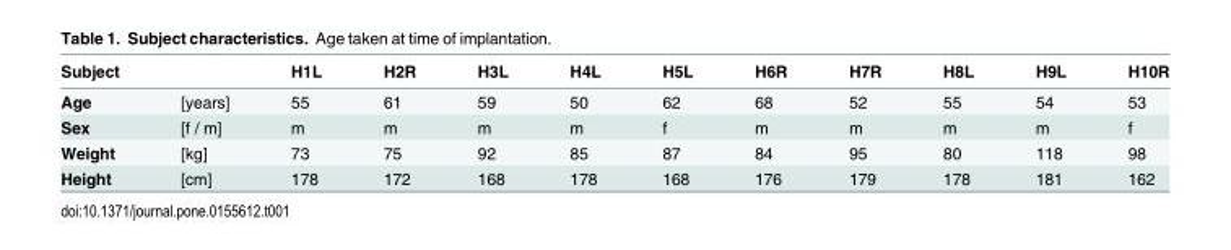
<table><thead><tr><td>Subject</td><td></td><td>H1L</td><td>H2R</td><td>H3L</td><td>H4L</td><td>H5L</td><td>H6R</td><td>H7R</td><td>H8L</td><td>H9L</td><td>H10R</td></tr></thead><tbody><tr><td>Age</td><td>[years]</td><td>55</td><td>61</td><td>59</td><td>50</td><td>62</td><td>68</td><td>52</td><td>55</td><td>54</td><td>53</td></tr><tr><td>Sex</td><td>[f / m]</td><td>m</td><td>m</td><td>m</td><td>m</td><td>f</td><td>m</td><td>m</td><td>m</td><td>m</td><td>f</td></tr><tr><td>Weight</td><td>[kg]</td><td>73</td><td>75</td><td>92</td><td>85</td><td>87</td><td>84</td><td>95</td><td>80</td><td>118</td><td>98</td></tr><tr><td>Height</td><td>[cm]</td><td>178</td><td>172</td><td>168</td><td>178</td><td>168</td><td>176</td><td>179</td><td>178</td><td>181</td><td>162</td></tr></tbody></table>